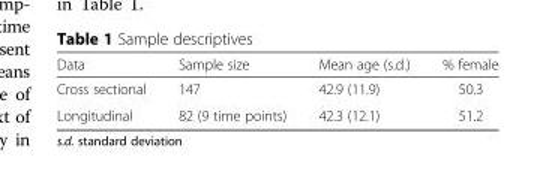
<table><thead><tr><td>Data</td><td>Sample size</td><td>Mean age (s.d.)</td><td>% female</td></tr></thead><tbody><tr><td>Cross sectional</td><td>147</td><td>42.9 (11.9)</td><td>50.3</td></tr><tr><td>Longitudinal</td><td>82 (9 time points)</td><td>42.3 (12.1)</td><td>51.2</td></tr></tbody></table>